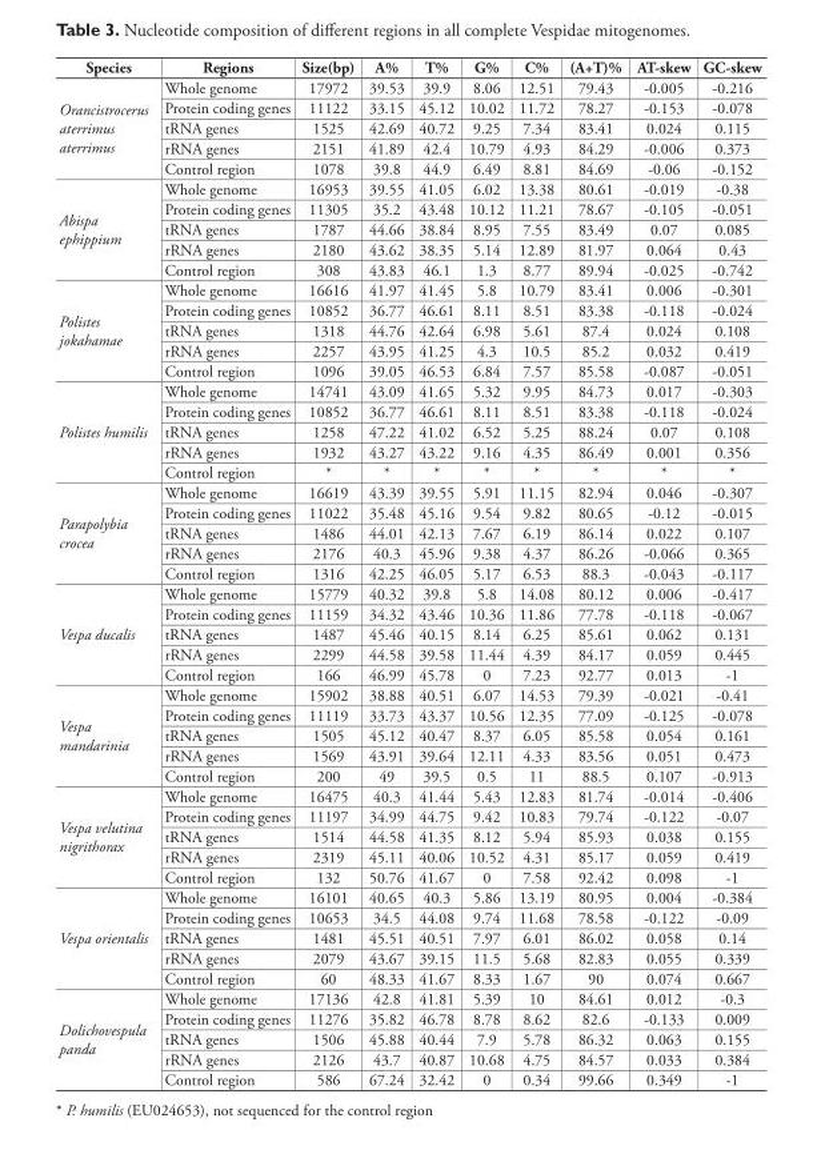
<table><thead><tr><td>Species</td><td>Regions</td><td>Size(bp)</td><td>A%</td><td>T%</td><td>G%</td><td>C%</td><td>(A+T)%</td><td>AT-skew</td><td>GC-skew</td></tr></thead><tbody><tr><td rowspan="5">Orancistrocerus aterrimus aterrimus</td><td>Whole genome</td><td>17972</td><td>39.53</td><td>39.9</td><td>8.06</td><td>12.51</td><td>79.43</td><td>-0.005</td><td>-0.216</td></tr><tr><td>Protein coding genes</td><td>11122</td><td>33.15</td><td>45.12</td><td>10.02</td><td>11.72</td><td>78.27</td><td>-0.153</td><td>-0.078</td></tr><tr><td>tRNA genes</td><td>1525</td><td>42.69</td><td>40.72</td><td>9.25</td><td>7.34</td><td>83.41</td><td>0.024</td><td>0.115</td></tr><tr><td>rRNA genes</td><td>2151</td><td>41.89</td><td>42.4</td><td>10.79</td><td>4.93</td><td>84.29</td><td>-0.006</td><td>0.373</td></tr><tr><td>Control region</td><td>1078</td><td>39.8</td><td>44.9</td><td>6.49</td><td>8.81</td><td>84.69</td><td>-0.06</td><td>-0.152</td></tr><tr><td rowspan="5">Abispa ephippium</td><td>Whole genome</td><td>16953</td><td>39.55</td><td>41.05</td><td>6.02</td><td>13.38</td><td>80.61</td><td>-0.019</td><td>-0.38</td></tr><tr><td>Protein coding genes</td><td>11305</td><td>35.2</td><td>43.48</td><td>10.12</td><td>11.21</td><td>78.67</td><td>-0.105</td><td>-0.051</td></tr><tr><td>tRNA genes</td><td>1787</td><td>44.66</td><td>38.84</td><td>8.95</td><td>7.55</td><td>83.49</td><td>0.07</td><td>0.085</td></tr><tr><td>rRNA genes</td><td>2180</td><td>43.62</td><td>38.35</td><td>5.14</td><td>12.89</td><td>81.97</td><td>0.064</td><td>0.43</td></tr><tr><td>Control region</td><td>308</td><td>43.83</td><td>46.1</td><td>1.3</td><td>8.77</td><td>89.94</td><td>-0.025</td><td>-0.742</td></tr><tr><td rowspan="5">Polistes jokahamae</td><td>Whole genome</td><td>16616</td><td>41.97</td><td>41.45</td><td>5.8</td><td>10.79</td><td>83.41</td><td>0.006</td><td>-0.301</td></tr><tr><td>Protein coding genes</td><td>10852</td><td>36.77</td><td>46.61</td><td>8.11</td><td>8.51</td><td>83.38</td><td>-0.118</td><td>-0.024</td></tr><tr><td>tRNA genes</td><td>1318</td><td>44.76</td><td>42.64</td><td>6.98</td><td>5.61</td><td>87.4</td><td>0.024</td><td>0.108</td></tr><tr><td>rRNA genes</td><td>2257</td><td>43.95</td><td>41.25</td><td>4.3</td><td>10.5</td><td>85.2</td><td>0.032</td><td>0.419</td></tr><tr><td>Control region</td><td>1096</td><td>39.05</td><td>46.53</td><td>6.84</td><td>7.57</td><td>85.58</td><td>-0.087</td><td>-0.051</td></tr><tr><td rowspan="5">Polistes humilis</td><td>Whole genome</td><td>14741</td><td>43.09</td><td>41.65</td><td>5.32</td><td>9.95</td><td>84.73</td><td>0.017</td><td>-0.303</td></tr><tr><td>Protein coding genes</td><td>10852</td><td>36.77</td><td>46.61</td><td>8.11</td><td>8.51</td><td>83.38</td><td>-0.118</td><td>-0.024</td></tr><tr><td>tRNA genes</td><td>1258</td><td>47.22</td><td>41.02</td><td>6.52</td><td>5.25</td><td>88.24</td><td>0.07</td><td>0.108</td></tr><tr><td>rRNA genes</td><td>1932</td><td>43.27</td><td>43.22</td><td>9.16</td><td>4.35</td><td>86.49</td><td>0.001</td><td>0.356</td></tr><tr><td>Control region</td><td>*</td><td>*</td><td>*</td><td>*</td><td>*</td><td>*</td><td>*</td><td>*</td></tr><tr><td rowspan="5">Parapolybia crocea</td><td>Whole genome</td><td>16619</td><td>43.39</td><td>39.55</td><td>5.91</td><td>11.15</td><td>82.94</td><td>0.046</td><td>-0.307</td></tr><tr><td>Protein coding genes</td><td>11022</td><td>35.48</td><td>45.16</td><td>9.54</td><td>9.82</td><td>80.65</td><td>-0.12</td><td>-0.015</td></tr><tr><td>tRNA genes</td><td>1486</td><td>44.01</td><td>42.13</td><td>7.67</td><td>6.19</td><td>86.14</td><td>0.022</td><td>0.107</td></tr><tr><td>rRNA genes</td><td>2176</td><td>40.3</td><td>45.96</td><td>9.38</td><td>4.37</td><td>86.26</td><td>-0.066</td><td>0.365</td></tr><tr><td>Control region</td><td>1316</td><td>42.25</td><td>46.05</td><td>5.17</td><td>6.53</td><td>88.3</td><td>-0.043</td><td>-0.117</td></tr><tr><td rowspan="5">Vespa ducalis</td><td>Whole genome</td><td>15779</td><td>40.32</td><td>39.8</td><td>5.8</td><td>14.08</td><td>80.12</td><td>0.006</td><td>-0.417</td></tr><tr><td>Protein coding genes</td><td>11159</td><td>34.32</td><td>43.46</td><td>10.36</td><td>11.86</td><td>77.78</td><td>-0.118</td><td>-0.067</td></tr><tr><td>tRNA genes</td><td>1487</td><td>45.46</td><td>40.15</td><td>8.14</td><td>6.25</td><td>85.61</td><td>0.062</td><td>0.131</td></tr><tr><td>rRNA genes</td><td>2299</td><td>44.58</td><td>39.58</td><td>11.44</td><td>4.39</td><td>84.17</td><td>0.059</td><td>0.445</td></tr><tr><td>Control region</td><td>166</td><td>46.99</td><td>45.78</td><td>0</td><td>7.23</td><td>92.77</td><td>0.013</td><td>-1</td></tr><tr><td rowspan="5">Vespa mandarinia</td><td>Whole genome</td><td>15902</td><td>38.88</td><td>40.51</td><td>6.07</td><td>14.53</td><td>79.39</td><td>-0.021</td><td>-0.41</td></tr><tr><td>Protein coding genes</td><td>11119</td><td>33.73</td><td>43.37</td><td>10.56</td><td>12.35</td><td>77.09</td><td>-0.125</td><td>-0.078</td></tr><tr><td>tRNA genes</td><td>1505</td><td>45.12</td><td>40.47</td><td>8.37</td><td>6.05</td><td>85.58</td><td>0.054</td><td>0.161</td></tr><tr><td>rRNA genes</td><td>1569</td><td>43.91</td><td>39.64</td><td>12.11</td><td>4.33</td><td>83.56</td><td>0.051</td><td>0.473</td></tr><tr><td>Control region</td><td>200</td><td>49</td><td>39.5</td><td>0.5</td><td>11</td><td>88.5</td><td>0.107</td><td>-0.913</td></tr><tr><td rowspan="5">Vespa velutina nigrithorax</td><td>Whole genome</td><td>16475</td><td>40.3</td><td>41.44</td><td>5.43</td><td>12.83</td><td>81.74</td><td>-0.014</td><td>-0.406</td></tr><tr><td>Protein coding genes</td><td>11197</td><td>34.99</td><td>44.75</td><td>9.42</td><td>10.83</td><td>79.74</td><td>-0.122</td><td>-0.07</td></tr><tr><td>tRNA genes</td><td>1514</td><td>44.58</td><td>41.35</td><td>8.12</td><td>5.94</td><td>85.93</td><td>0.038</td><td>0.155</td></tr><tr><td>rRNA genes</td><td>2319</td><td>45.11</td><td>40.06</td><td>10.52</td><td>4.31</td><td>85.17</td><td>0.059</td><td>0.419</td></tr><tr><td>Control region</td><td>132</td><td>50.76</td><td>41.67</td><td>0</td><td>7.58</td><td>92.42</td><td>0.098</td><td>-1</td></tr><tr><td rowspan="5">Vespa orientalis</td><td>Whole genome</td><td>16101</td><td>40.65</td><td>40.3</td><td>5.86</td><td>13.19</td><td>80.95</td><td>0.004</td><td>-0.384</td></tr><tr><td>Protein coding genes</td><td>10653</td><td>34.5</td><td>44.08</td><td>9.74</td><td>11.68</td><td>78.58</td><td>-0.122</td><td>-0.09</td></tr><tr><td>tRNA genes</td><td>1481</td><td>45.51</td><td>40.51</td><td>7.97</td><td>6.01</td><td>86.02</td><td>0.058</td><td>0.14</td></tr><tr><td>rRNA genes</td><td>2079</td><td>43.67</td><td>39.15</td><td>11.5</td><td>5.68</td><td>82.83</td><td>0.055</td><td>0.339</td></tr><tr><td>Control region</td><td>60</td><td>48.33</td><td>41.67</td><td>8.33</td><td>1.67</td><td>90</td><td>0.074</td><td>0.667</td></tr><tr><td rowspan="5">Dolichovespula panda</td><td>Whole genome</td><td>17136</td><td>42.8</td><td>41.81</td><td>5.39</td><td>10</td><td>84.61</td><td>0.012</td><td>-0.3</td></tr><tr><td>Protein coding genes</td><td>11276</td><td>35.82</td><td>46.78</td><td>8.78</td><td>8.62</td><td>82.6</td><td>-0.133</td><td>0.009</td></tr><tr><td>tRNA genes</td><td>1506</td><td>45.88</td><td>40.44</td><td>7.9</td><td>5.78</td><td>86.32</td><td>0.063</td><td>0.155</td></tr><tr><td>rRNA genes</td><td>2126</td><td>43.7</td><td>40.87</td><td>10.68</td><td>4.75</td><td>84.57</td><td>0.033</td><td>0.384</td></tr><tr><td>Control region</td><td>586</td><td>67.24</td><td>32.42</td><td>0</td><td>0.34</td><td>99.66</td><td>0.349</td><td>-1</td></tr></tbody></table>